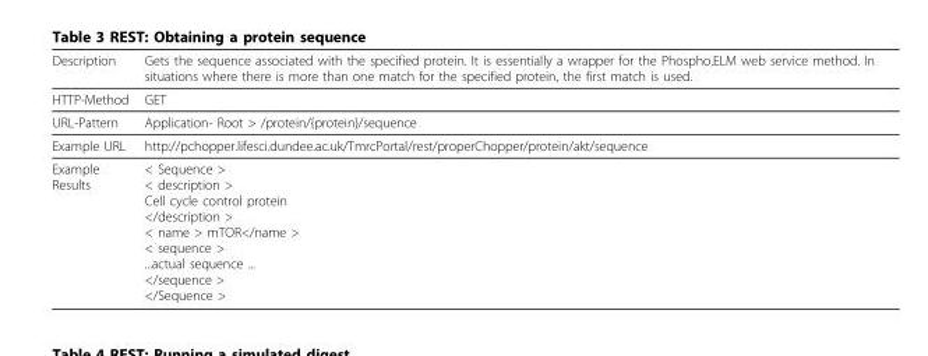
<table><thead><tr><td>Description</td><td>Gets the sequence associated with the specified protein. It is essentially a wrapper for the Phospho.ELM web service method. In situations where there is more than one match for the specified protein, the first match is used.</td></tr></thead><tbody><tr><td>HTTP-Method</td><td>GET</td></tr><tr><td>URL-Pattern</td><td>Application- Root &gt; /protein/{protein}/sequence</td></tr><tr><td>Example URL</td><td>http://pchopper.lifesci.dundee.ac.uk/TmrcPortal/rest/properChopper/protein/akt/sequence</td></tr><tr><td>Example Results</td><td>&lt; Sequence &gt; &lt; description &gt; Cell cycle control protein &lt;/description &gt; &lt; name &gt; mTOR&lt;/name &gt; &lt; sequence &gt; ...actual sequence ... &lt;/sequence &gt; &lt;/Sequence &gt;</td></tr></tbody></table>